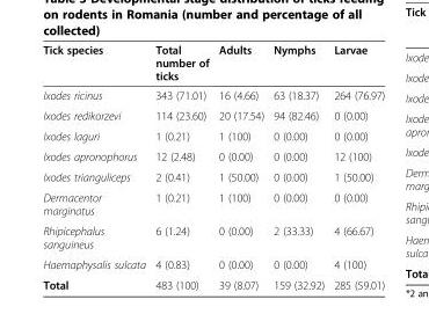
<table><thead><tr><td>Tick species</td><td>Total number of ticks</td><td>Adults</td><td>Nymphs</td><td>Larvae</td></tr></thead><tbody><tr><td>Ixodes ricinus</td><td>343 (71.01)</td><td>16 (4.66)</td><td>63 (18.37)</td><td>264 (76.97)</td></tr><tr><td>Ixodes redikorzevi</td><td>114 (23.60)</td><td>20 (17.54)</td><td>94 (82.46)</td><td>0 (0.00)</td></tr><tr><td>Ixodes laguri</td><td>1 (0.21)</td><td>1 (100)</td><td>0 (0.00)</td><td>0 (0.00)</td></tr><tr><td>Ixodes apronophorus</td><td>12 (2.48)</td><td>0 (0.00)</td><td>0 (0.00)</td><td>12 (100)</td></tr><tr><td>Ixodes trianguliceps</td><td>2 (0.41)</td><td>1 (50.00)</td><td>0 (0.00)</td><td>1 (50.00)</td></tr><tr><td>Dermacentor marginatus</td><td>1 (0.21)</td><td>1 (100)</td><td>0 (0.00)</td><td>0 (0.00)</td></tr><tr><td>Rhipicephalus sanguineus</td><td>6 (1.24)</td><td>0 (0.00)</td><td>2 (33.33)</td><td>4 (66.67)</td></tr><tr><td>Haemaphysalis sulcata</td><td>4 (0.83)</td><td>0 (0.00)</td><td>0 (0.00)</td><td>4 (100)</td></tr><tr><td>Total</td><td>483 (100)</td><td>39 (8.07)</td><td>159 (32.92)</td><td>285 (59.01)</td></tr></tbody></table>